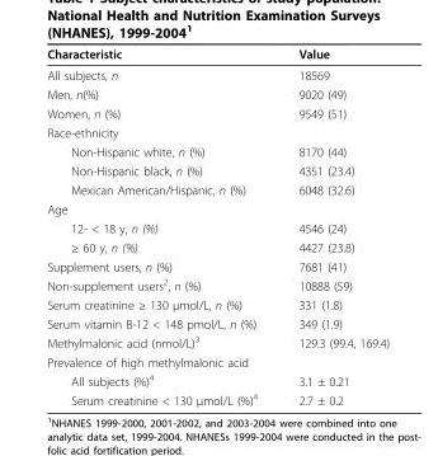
<table><thead><tr><td>Characteristic</td><td>Value</td></tr></thead><tbody><tr><td>All subjects, n</td><td>18569</td></tr><tr><td>Men, n(%)</td><td>9020 (49)</td></tr><tr><td>Women, n (%)</td><td>9549 (51)</td></tr><tr><td colspan="2">Race-ethnicity</td></tr><tr><td>Non-Hispanic white, n (%)</td><td>8170 (44)</td></tr><tr><td>Non-Hispanic black, n (%)</td><td>4351 (23.4)</td></tr><tr><td>Mexican American/Hispanic, n (%)</td><td>6048 (32.6)</td></tr><tr><td colspan="2">Age</td></tr><tr><td>12- &lt; 18 y, n (%)</td><td>4546 (24)</td></tr><tr><td>≥ 60 y, n (%)</td><td>4427 (23.8)</td></tr><tr><td>Supplement users, n (%)</td><td>7681 (41)</td></tr><tr><td>Non-supplement users<sup>2</sup>, n (%)</td><td>10888 (59)</td></tr><tr><td>Serum creatinine ≥ 130 μmol/L, n (%)</td><td>331 (1.8)</td></tr><tr><td>Serum vitamin B-12 &lt; 148 pmol/L, n (%)</td><td>349 (1.9)</td></tr><tr><td>Methylmalonic acid (nmol/L)<sup>3</sup></td><td>129.3 (99.4, 169.4)</td></tr><tr><td colspan="2">Prevalence of high methylmalonic acid</td></tr><tr><td>All subjects (%)<sup>4</sup></td><td>3.1 ± 0.21</td></tr><tr><td>Serum creatinine &lt; 130 μmol/L (%)<sup>4</sup></td><td>2.7 ± 0.2</td></tr></tbody></table>